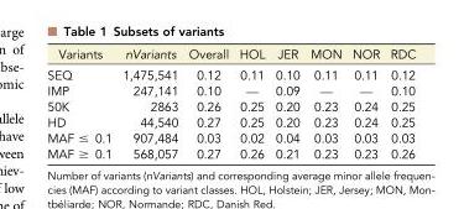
<table><thead><tr><td>Variants</td><td>nVariants</td><td>Overall</td><td>HOL</td><td>JER</td><td>MON</td><td>NOR</td><td>RDC</td></tr></thead><tbody><tr><td>SEQ</td><td>1,475,541</td><td>0.12</td><td>0.11</td><td>0.10</td><td>0.11</td><td>0.11</td><td>0.12</td></tr><tr><td>IMP</td><td>247,141</td><td>0.10</td><td>—</td><td>0.09</td><td>—</td><td>—</td><td>0.10</td></tr><tr><td>50K</td><td>2863</td><td>0.26</td><td>0.25</td><td>0.20</td><td>0.23</td><td>0.24</td><td>0.25</td></tr><tr><td>HD</td><td>44,540</td><td>0.27</td><td>0.25</td><td>0.20</td><td>0.23</td><td>0.24</td><td>0.25</td></tr><tr><td>MAF ≤ 0.1</td><td>907,484</td><td>0.03</td><td>0.02</td><td>0.04</td><td>0.03</td><td>0.03</td><td>0.03</td></tr><tr><td>MAF ≥ 0.1</td><td>568,057</td><td>0.27</td><td>0.26</td><td>0.21</td><td>0.23</td><td>0.23</td><td>0.26</td></tr></tbody></table>